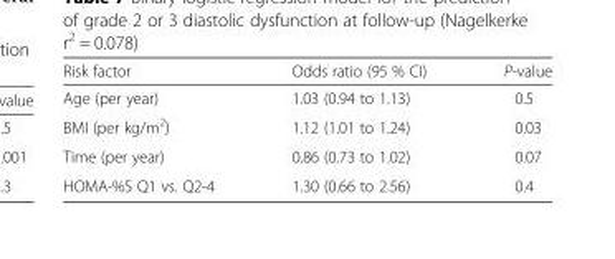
<table><thead><tr><td>Risk factor</td><td>Odds ratio (95 % CI)</td><td>P-value</td></tr></thead><tbody><tr><td>Age (per year)</td><td>1.03 (0.94 to 1.13)</td><td>0.5</td></tr><tr><td>BMI (per kg/m<sup>2</sup>)</td><td>1.12 (1.01 to 1.24)</td><td>0.03</td></tr><tr><td>Time (per year)</td><td>0.86 (0.73 to 1.02)</td><td>0.07</td></tr><tr><td>HOMA-%S Q1 vs. Q2-4</td><td>1.30 (0.66 to 2.56)</td><td>0.4</td></tr></tbody></table>